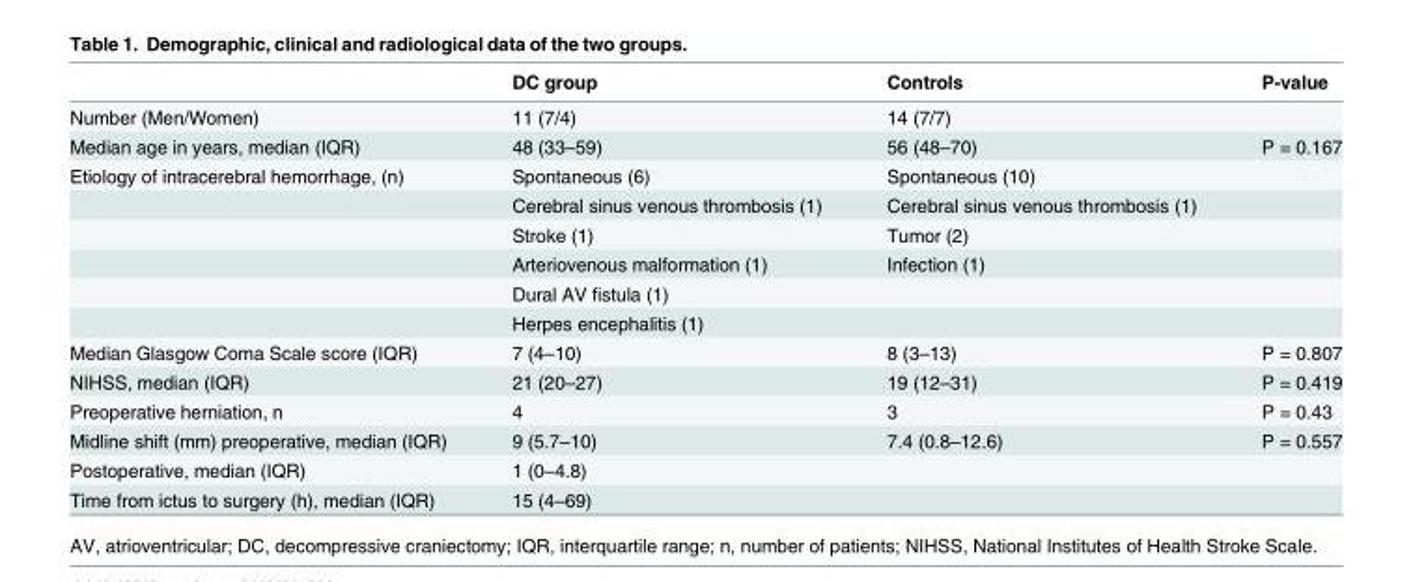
<table><thead><tr><td></td><td>DC group</td><td>Controls</td><td>P-value</td></tr></thead><tbody><tr><td>Number (Men/Women)</td><td>11 (7/4)</td><td>14 (7/7)</td><td></td></tr><tr><td>Median age in years, median (IQR)</td><td>48 (33–59)</td><td>56 (48–70)</td><td>P = 0.167</td></tr><tr><td rowspan="6">Etiology of intracerebral hemorrhage, (n)</td><td>Spontaneous (6)</td><td>Spontaneous (10)</td><td></td></tr><tr><td>Cerebral sinus venous thrombosis (1)</td><td>Cerebral sinus venous thrombosis (1)</td><td></td></tr><tr><td>Stroke (1)</td><td>Tumor (2)</td><td></td></tr><tr><td>Arteriovenous malformation (1)</td><td>Infection (1)</td><td></td></tr><tr><td>Dural AV fistula (1)</td><td></td><td></td></tr><tr><td>Herpes encephalitis (1)</td><td></td><td></td></tr><tr><td>Median Glasgow Coma Scale score (IQR)</td><td>7 (4–10)</td><td>8 (3–13)</td><td>P = 0.807</td></tr><tr><td>NIHSS, median (IQR)</td><td>21 (20–27)</td><td>19 (12–31)</td><td>P = 0.419</td></tr><tr><td>Preoperative herniation, n</td><td>4</td><td>3</td><td>P = 0.43</td></tr><tr><td>Midline shift (mm) preoperative, median (IQR)</td><td>9 (5.7–10)</td><td>7.4 (0.8–12.6)</td><td>P = 0.557</td></tr><tr><td>Postoperative, median (IQR)</td><td>1 (0–4.8)</td><td></td><td></td></tr><tr><td>Time from ictus to surgery (h), median (IQR)</td><td>15 (4–69)</td><td></td><td></td></tr></tbody></table>